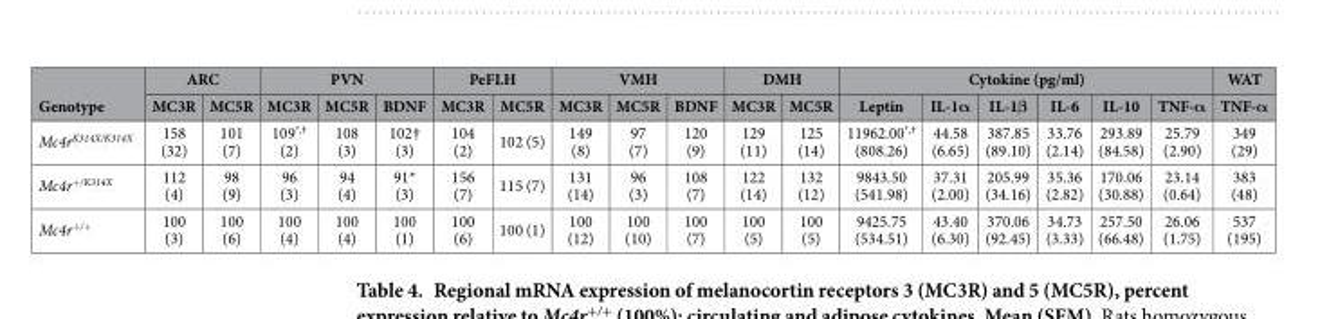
<table><thead><tr><td rowspan="2">Genotype</td><td colspan="2">ARC</td><td colspan="3">PVN</td><td colspan="2">PeFLH</td><td colspan="3">VMH</td><td colspan="2">DMH</td><td colspan="6">Cytokine (pg/ml)</td><td rowspan="2">WAT TNF-α</td></tr><tr><td>MC3R</td><td>MC5R</td><td>MC3R</td><td>MC5R</td><td>BDNF</td><td>MC3R</td><td>MC5R</td><td>MC3R</td><td>MC5R</td><td>BDNF</td><td>MC3R</td><td>MC5R</td><td>Leptin</td><td>IL-1α</td><td>IL-1β</td><td>IL-6</td><td>IL-10</td><td>TNF-α</td></tr></thead><tbody><tr><td>Mc4r<sup>K314X/K314X</sup></td><td>158 (32)</td><td>101 (7)</td><td>109<sup>*,†</sup> (2)</td><td>108 (3)</td><td>102† (3)</td><td>104 (2)</td><td>102 (5)</td><td>149 (8)</td><td>97 (7)</td><td>120 (9)</td><td>129 (11)</td><td>125 (14)</td><td>11962.00<sup>*,†</sup> (808.26)</td><td>44.58 (6.65)</td><td>387.85 (89.10)</td><td>33.76 (2.14)</td><td>293.89 (84.58)</td><td>25.79 (2.90)</td><td>349 (29)</td></tr><tr><td>Mc4r<sup>+/K314X</sup></td><td>112 (4)</td><td>98 (9)</td><td>96 (3)</td><td>94 (4)</td><td>91* (3)</td><td>156 (7)</td><td>115 (7)</td><td>131 (14)</td><td>96 (3)</td><td>108 (7)</td><td>122 (14)</td><td>132 (12)</td><td>9843.50 (541.98)</td><td>37.31 (2.00)</td><td>205.99 (34.16)</td><td>35.36 (2.82)</td><td>170.06 (30.88)</td><td>23.14 (0.64)</td><td>383 (48)</td></tr><tr><td>Mc4r<sup>+/+</sup></td><td>100 (3)</td><td>100 (6)</td><td>100 (4)</td><td>100 (4)</td><td>100 (1)</td><td>100 (6)</td><td>100 (1)</td><td>100 (12)</td><td>100 (10)</td><td>100 (7)</td><td>100 (5)</td><td>100 (5)</td><td>9425.75 (534.51)</td><td>43.40 (6.30)</td><td>370.06 (92.45)</td><td>34.73 (3.33)</td><td>257.50 (66.48)</td><td>26.06 (1.75)</td><td>537 (195)</td></tr></tbody></table>